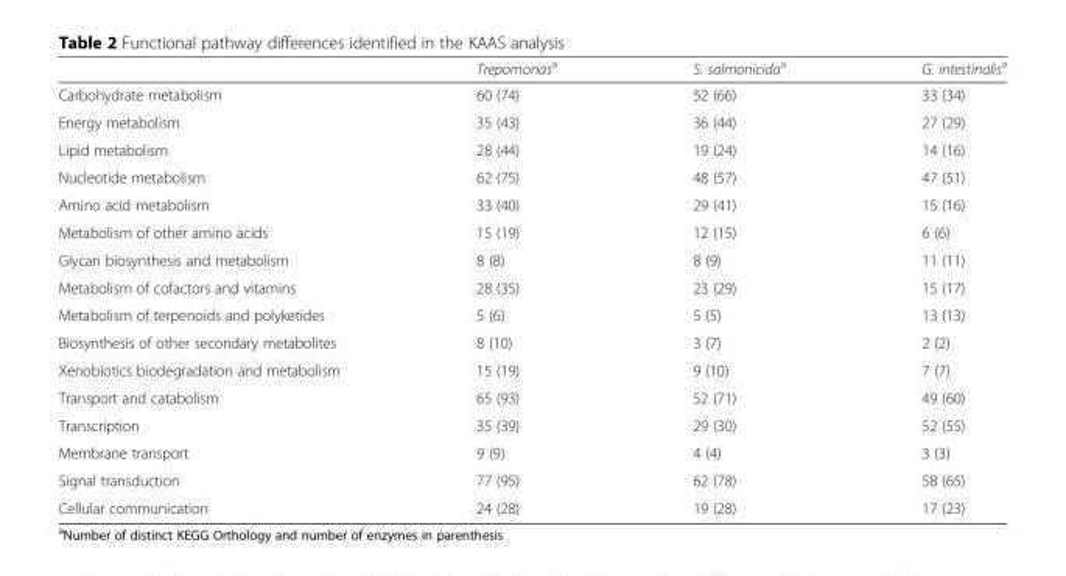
<table><thead><tr><td></td><td>Trepomonas<sup>a</sup></td><td>S. salmonicida<sup>a</sup></td><td>G. intestinalis<sup>a</sup></td></tr></thead><tbody><tr><td>Carbohydrate metabolism</td><td>60 (74)</td><td>52 (66)</td><td>33 (34)</td></tr><tr><td>Energy metabolism</td><td>35 (43)</td><td>36 (44)</td><td>27 (29)</td></tr><tr><td>Lipid metabolism</td><td>28 (44)</td><td>19 (24)</td><td>14 (16)</td></tr><tr><td>Nucleotide metabolism</td><td>62 (75)</td><td>48 (57)</td><td>47 (51)</td></tr><tr><td>Amino acid metabolism</td><td>33 (40)</td><td>29 (41)</td><td>15 (16)</td></tr><tr><td>Metabolism of other amino acids</td><td>15 (19)</td><td>12 (15)</td><td>6 (6)</td></tr><tr><td>Glycan biosynthesis and metabolism</td><td>8 (8)</td><td>8 (9)</td><td>11 (11)</td></tr><tr><td>Metabolism of cofactors and vitamins</td><td>28 (35)</td><td>23 (29)</td><td>15 (17)</td></tr><tr><td>Metabolism of terpenoids and polyketides</td><td>5 (6)</td><td>5 (5)</td><td>13 (13)</td></tr><tr><td>Biosynthesis of other secondary metabolites</td><td>8 (10)</td><td>3 (7)</td><td>2 (2)</td></tr><tr><td>Xenobiotics biodegradation and metabolism</td><td>15 (19)</td><td>9 (10)</td><td>7 (7)</td></tr><tr><td>Transport and catabolism</td><td>65 (93)</td><td>52 (71)</td><td>49 (60)</td></tr><tr><td>Transcription</td><td>35 (39)</td><td>29 (30)</td><td>52 (55)</td></tr><tr><td>Membrane transport</td><td>9 (9)</td><td>4 (4)</td><td>3 (3)</td></tr><tr><td>Signal transduction</td><td>77 (95)</td><td>62 (78)</td><td>58 (65)</td></tr><tr><td>Cellular communication</td><td>24 (28)</td><td>19 (28)</td><td>17 (23)</td></tr></tbody></table>